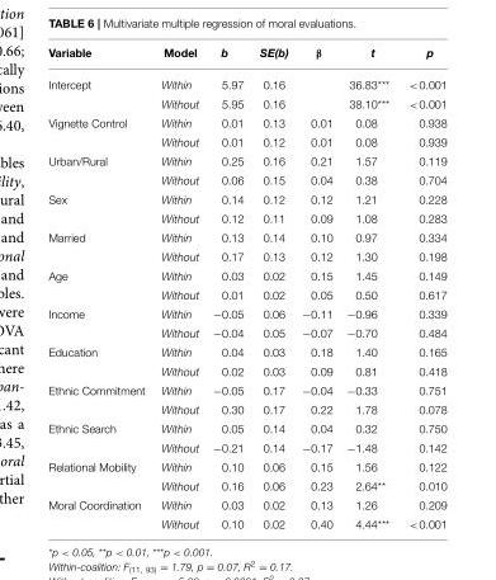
<table><thead><tr><td>Variable</td><td>Model</td><td>b</td><td>SE(b)</td><td>β</td><td>t</td><td>p</td></tr></thead><tbody><tr><td rowspan="2">Intercept</td><td>Within</td><td>5.97</td><td>0.16</td><td></td><td>36.83***</td><td>&lt;0.001</td></tr><tr><td>Without</td><td>5.95</td><td>0.16</td><td></td><td>38.10***</td><td>&lt;0.001</td></tr><tr><td rowspan="2">Vignette Control</td><td>Within</td><td>0.01</td><td>0.13</td><td>0.01</td><td>0.08</td><td>0.938</td></tr><tr><td>Without</td><td>0.01</td><td>0.12</td><td>0.01</td><td>0.08</td><td>0.939</td></tr><tr><td rowspan="2">Urban/Rural</td><td>Within</td><td>0.25</td><td>0.16</td><td>0.21</td><td>1.57</td><td>0.119</td></tr><tr><td>Without</td><td>0.06</td><td>0.15</td><td>0.04</td><td>0.38</td><td>0.704</td></tr><tr><td rowspan="2">Sex</td><td>Within</td><td>0.14</td><td>0.12</td><td>0.12</td><td>1.21</td><td>0.228</td></tr><tr><td>Without</td><td>0.12</td><td>0.11</td><td>0.09</td><td>1.08</td><td>0.283</td></tr><tr><td rowspan="2">Married</td><td>Within</td><td>0.13</td><td>0.14</td><td>0.10</td><td>0.97</td><td>0.334</td></tr><tr><td>Without</td><td>0.17</td><td>0.13</td><td>0.12</td><td>1.30</td><td>0.198</td></tr><tr><td rowspan="2">Age</td><td>Within</td><td>0.03</td><td>0.02</td><td>0.15</td><td>1.45</td><td>0.149</td></tr><tr><td>Without</td><td>0.01</td><td>0.02</td><td>0.05</td><td>0.50</td><td>0.617</td></tr><tr><td rowspan="2">Income</td><td>Within</td><td>−0.05</td><td>0.06</td><td>−0.11</td><td>−0.96</td><td>0.339</td></tr><tr><td>Without</td><td>−0.04</td><td>0.05</td><td>−0.07</td><td>−0.70</td><td>0.484</td></tr><tr><td rowspan="2">Education</td><td>Within</td><td>0.04</td><td>0.03</td><td>0.18</td><td>1.40</td><td>0.165</td></tr><tr><td>Without</td><td>0.02</td><td>0.03</td><td>0.09</td><td>0.81</td><td>0.418</td></tr><tr><td rowspan="2">Ethnic Commitment</td><td>Within</td><td>−0.05</td><td>0.17</td><td>−0.04</td><td>−0.33</td><td>0.751</td></tr><tr><td>Without</td><td>0.30</td><td>0.17</td><td>0.22</td><td>1.78</td><td>0.078</td></tr><tr><td rowspan="2">Ethnic Search</td><td>Within</td><td>0.05</td><td>0.14</td><td>0.04</td><td>0.32</td><td>0.750</td></tr><tr><td>Without</td><td>−0.21</td><td>0.14</td><td>−0.17</td><td>−1.48</td><td>0.142</td></tr><tr><td rowspan="2">Relational Mobility</td><td>Within</td><td>0.10</td><td>0.06</td><td>0.15</td><td>1.56</td><td>0.122</td></tr><tr><td>Without</td><td>0.16</td><td>0.06</td><td>0.23</td><td>2.64**</td><td>0.010</td></tr><tr><td rowspan="2">Moral Coordination</td><td>Within</td><td>0.03</td><td>0.02</td><td>0.13</td><td>1.26</td><td>0.209</td></tr><tr><td>Without</td><td>0.10</td><td>0.02</td><td>0.40</td><td>4.44***</td><td>&lt;0.001</td></tr></tbody></table>